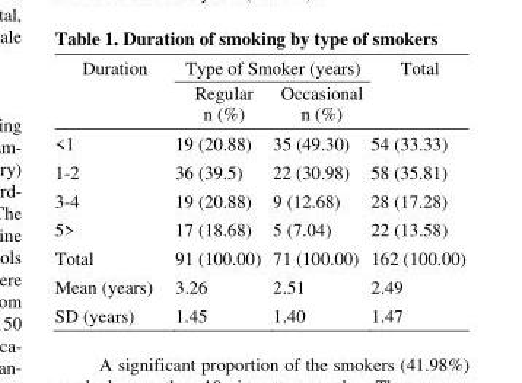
<table><thead><tr><td rowspan="2">Duration</td><td colspan="2">Type of Smoker (years)</td><td rowspan="2">Total</td></tr><tr><td>Regular n (%)</td><td>Occasional n (%)</td></tr></thead><tbody><tr><td>&lt;1</td><td>19 (20.88)</td><td>35 (49.30)</td><td>54 (33.33)</td></tr><tr><td>1-2</td><td>36 (39.5)</td><td>22 (30.98)</td><td>58 (35.81)</td></tr><tr><td>3-4</td><td>19 (20.88)</td><td>9 (12.68)</td><td>28 (17.28)</td></tr><tr><td>5&gt;</td><td>17 (18.68)</td><td>5 (7.04)</td><td>22 (13.58)</td></tr><tr><td>Total</td><td>91 (100.00)</td><td>71 (100.00)</td><td>162 (100.00)</td></tr><tr><td>Mean (years)</td><td>3.26</td><td>2.51</td><td>2.49</td></tr><tr><td>SD (years)</td><td>1.45</td><td>1.40</td><td>1.47</td></tr></tbody></table>